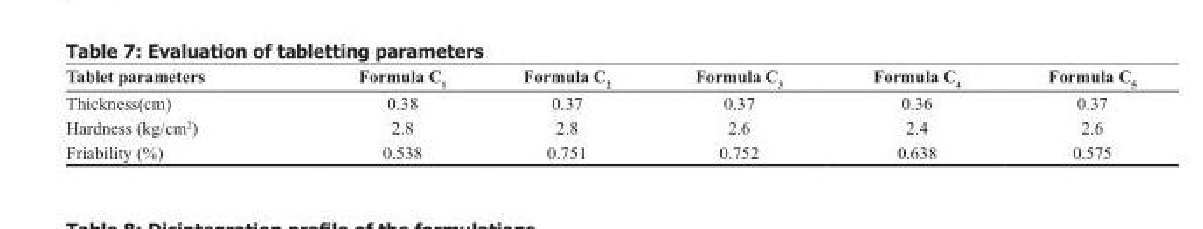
<table><thead><tr><td>Tablet parameters</td><td>Formula C<sub>1</sub></td><td>Formula C<sub>2</sub></td><td>Formula C<sub>3</sub></td><td>Formula C<sub>4</sub></td><td>Formula C<sub>5</sub></td></tr></thead><tbody><tr><td>Thickness(cm)</td><td>0.38</td><td>0.37</td><td>0.37</td><td>0.36</td><td>0.37</td></tr><tr><td>Hardness (kg/cm<sup>2</sup>)</td><td>2.8</td><td>2.8</td><td>2.6</td><td>2.4</td><td>2.6</td></tr><tr><td>Friability (%)</td><td>0.538</td><td>0.751</td><td>0.752</td><td>0.638</td><td>0.575</td></tr></tbody></table>